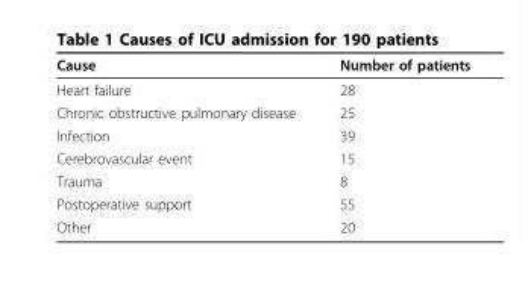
<table><thead><tr><td>Cause</td><td>Number of patients</td></tr></thead><tbody><tr><td>Heart failure</td><td>28</td></tr><tr><td>Chronic obstructive pulmonary disease</td><td>25</td></tr><tr><td>Infection</td><td>39</td></tr><tr><td>Cerebrovascular event</td><td>15</td></tr><tr><td>Trauma</td><td>8</td></tr><tr><td>Postoperative support</td><td>55</td></tr><tr><td>Other</td><td>20</td></tr></tbody></table>